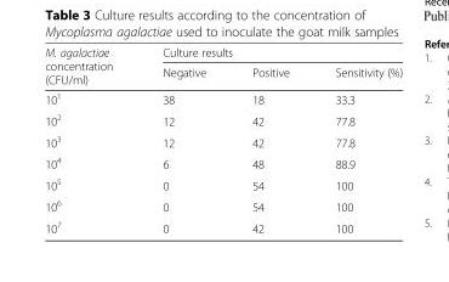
<table><thead><tr><td rowspan="2">M. agalactiae concentration (CFU/ml)</td><td colspan="3">Culture results</td></tr><tr><td>Negative</td><td>Positive</td><td>Sensitivity (%)</td></tr></thead><tbody><tr><td>10<sup>1</sup></td><td>38</td><td>18</td><td>33.3</td></tr><tr><td>10<sup>2</sup></td><td>12</td><td>42</td><td>77.8</td></tr><tr><td>10<sup>3</sup></td><td>12</td><td>42</td><td>77.8</td></tr><tr><td>10<sup>4</sup></td><td>6</td><td>48</td><td>88.9</td></tr><tr><td>10<sup>5</sup></td><td>0</td><td>54</td><td>100</td></tr><tr><td>10<sup>6</sup></td><td>0</td><td>54</td><td>100</td></tr><tr><td>10<sup>7</sup></td><td>0</td><td>42</td><td>100</td></tr></tbody></table>